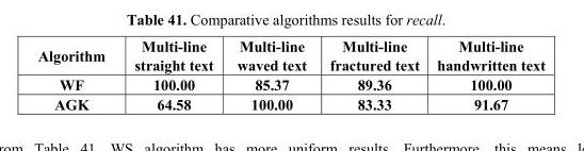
<table><thead><tr><td>Algorithm</td><td>Multi-line straight text</td><td>Multi-line waved text</td><td>Multi-line fractured text</td><td>Multi-line handwritten text</td></tr></thead><tbody><tr><td>WF</td><td>100.00</td><td>85.37</td><td>89.36</td><td>100.00</td></tr><tr><td>AGK</td><td>64.58</td><td>100.00</td><td>83.33</td><td>91.67</td></tr></tbody></table>